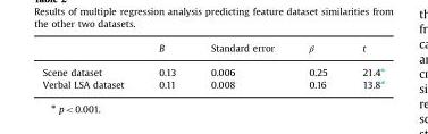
<table><thead><tr><td></td><td>B</td><td>Standard error</td><td>β</td><td>t</td></tr></thead><tbody><tr><td>Scene dataset</td><td>0.13</td><td>0.006</td><td>0.25</td><td>21.4⁎</td></tr><tr><td>Verbal LSA dataset</td><td>0.11</td><td>0.008</td><td>0.16</td><td>13.8⁎</td></tr></tbody></table>